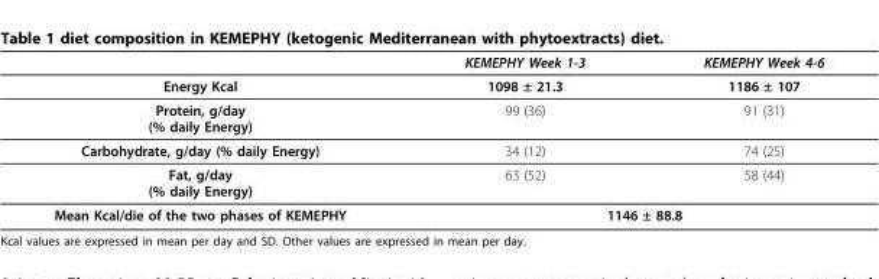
<table><thead><tr><td></td><td>KEMEPHY Week 1-3</td><td>KEMEPHY Week 4-6</td></tr></thead><tbody><tr><td>Energy Kcal</td><td>1098 ± 21.3</td><td>1186 ± 107</td></tr><tr><td>Protein, g/day (% daily Energy)</td><td>99 (36)</td><td>91 (31)</td></tr><tr><td>Carbohydrate, g/day (% daily Energy)</td><td>34 (12)</td><td>74 (25)</td></tr><tr><td>Fat, g/day (% daily Energy)</td><td>63 (52)</td><td>58 (44)</td></tr><tr><td>Mean Kcal/die of the two phases of KEMEPHY</td><td colspan="2">1146 ± 88.8</td></tr></tbody></table>